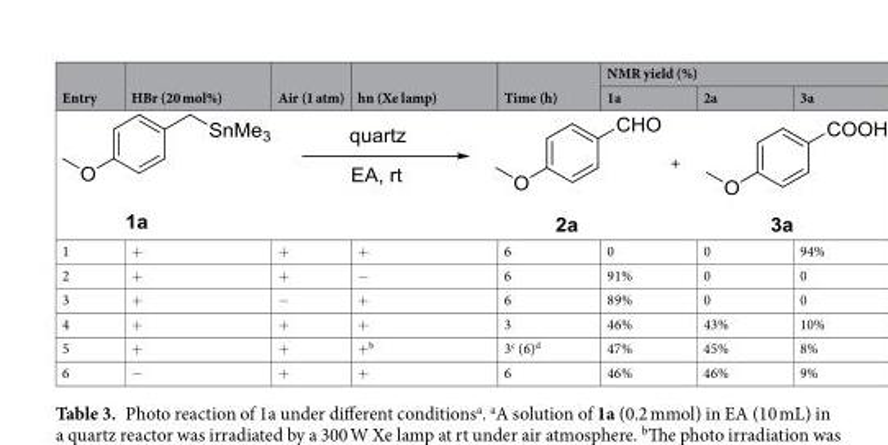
<table><thead><tr><td rowspan="2">Entry</td><td rowspan="2">HBr (20 mol%)</td><td rowspan="2">Air (1 atm)</td><td rowspan="2">hn (Xe lamp)</td><td rowspan="2">Time (h)</td><td colspan="3">NMR yield (%)</td></tr><tr><td>1a</td><td>2a</td><td>3a</td></tr></thead><tbody><tr><td>1</td><td>+</td><td>+</td><td>+</td><td>6</td><td>0</td><td>0</td><td>94%</td></tr><tr><td>2</td><td>+</td><td>+</td><td>−</td><td>6</td><td>91%</td><td>0</td><td>0</td></tr><tr><td>3</td><td>+</td><td>−</td><td>+</td><td>6</td><td>89%</td><td>0</td><td>0</td></tr><tr><td>4</td><td>+</td><td>+</td><td>+</td><td>3</td><td>46%</td><td>43%</td><td>10%</td></tr><tr><td>5</td><td>+</td><td>+</td><td>+<sup>b</sup></td><td>3<sup>c</sup> (6)<sup>d</sup></td><td>47%</td><td>45%</td><td>8%</td></tr><tr><td>6</td><td>−</td><td>+</td><td>+</td><td>6</td><td>46%</td><td>46%</td><td>9%</td></tr></tbody></table>